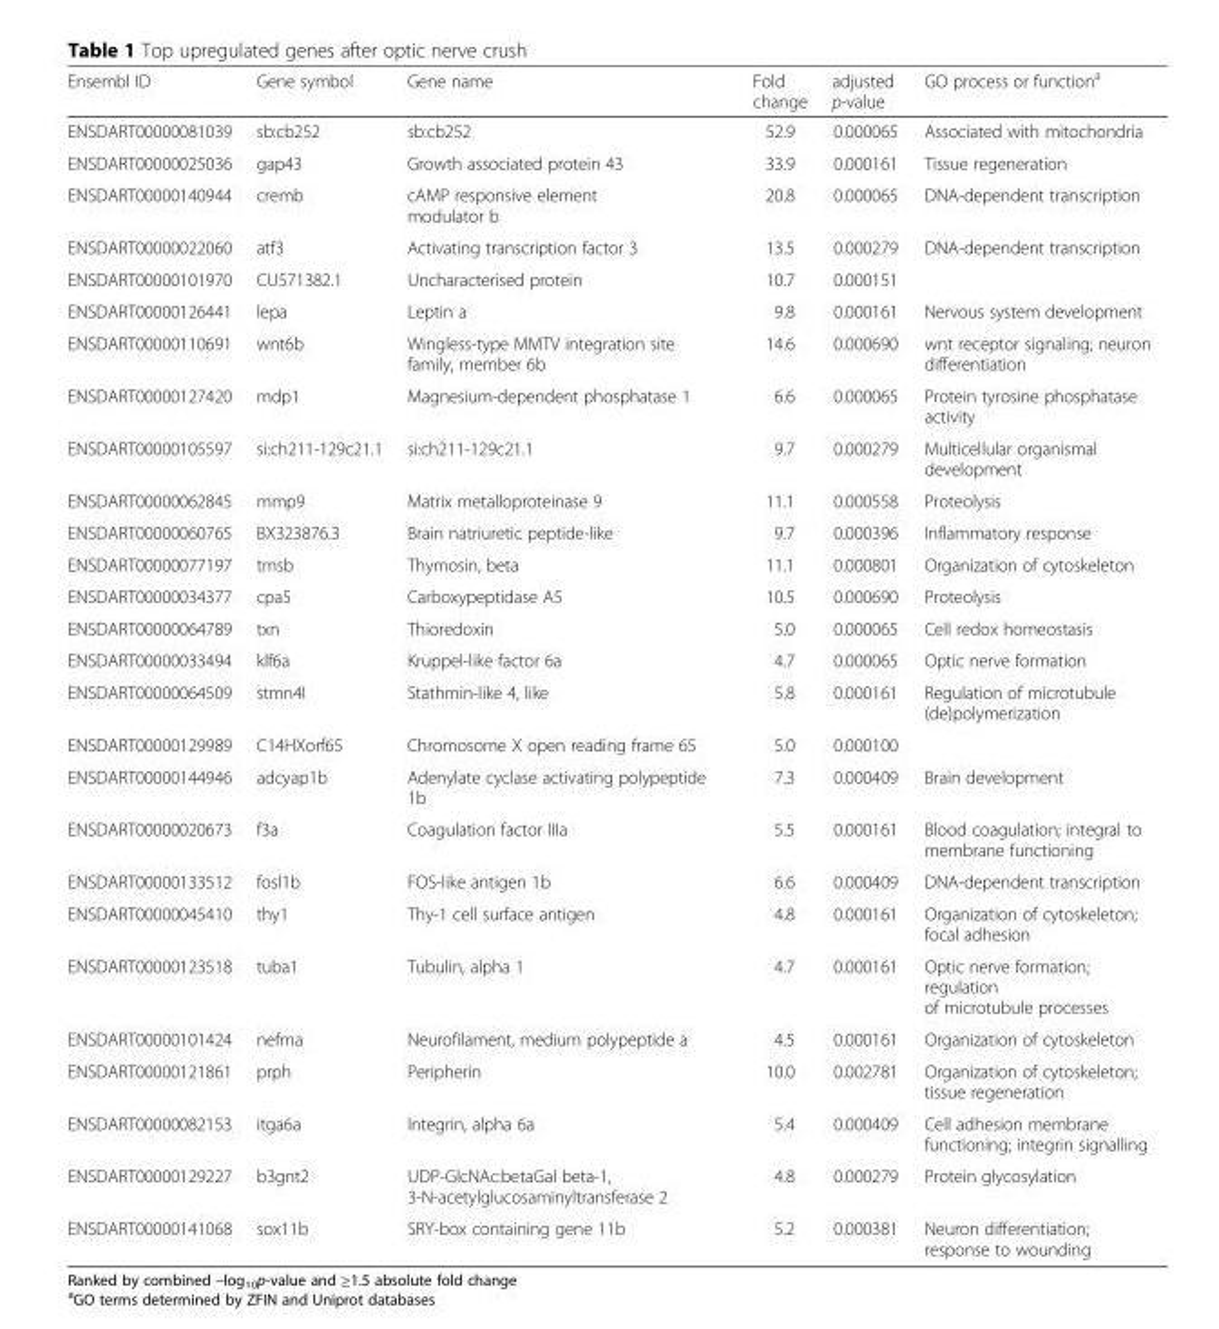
<table><thead><tr><td>Ensembl ID</td><td>Gene symbol</td><td>Gene name</td><td>Fold change</td><td>adjusted p-value</td><td>GO process or function<sup>a</sup></td></tr></thead><tbody><tr><td>ENSDART00000081039</td><td>sb:cb252</td><td>sb:cb252</td><td>52.9</td><td>0.000065</td><td>Associated with mitochondria</td></tr><tr><td>ENSDART00000025036</td><td>gap43</td><td>Growth associated protein 43</td><td>33.9</td><td>0.000161</td><td>Tissue regeneration</td></tr><tr><td>ENSDART00000140944</td><td>cremb</td><td>cAMP responsive element modulator b</td><td>20.8</td><td>0.000065</td><td>DNA-dependent transcription</td></tr><tr><td>ENSDART00000022060</td><td>atf3</td><td>Activating transcription factor 3</td><td>13.5</td><td>0.000279</td><td>DNA-dependent transcription</td></tr><tr><td>ENSDART00000101970</td><td>CU571382.1</td><td>Uncharacterised protein</td><td>10.7</td><td>0.000151</td><td></td></tr><tr><td>ENSDART00000126441</td><td>lepa</td><td>Leptin a</td><td>9.8</td><td>0.000161</td><td>Nervous system development</td></tr><tr><td>ENSDART00000110691</td><td>wnt6b</td><td>Wingless-type MMTV integration site family, member 6b</td><td>14.6</td><td>0.000690</td><td>wnt receptor signaling; neuron differentiation</td></tr><tr><td>ENSDART00000127420</td><td>mdp1</td><td>Magnesium-dependent phosphatase 1</td><td>6.6</td><td>0.000065</td><td>Protein tyrosine phosphatase activity</td></tr><tr><td>ENSDART00000105597</td><td>si:ch211-129c21.1</td><td>si:ch211-129c21.1</td><td>9.7</td><td>0.000279</td><td>Multicellular organismal development</td></tr><tr><td>ENSDART00000062845</td><td>mmp9</td><td>Matrix metalloproteinase 9</td><td>11.1</td><td>0.000558</td><td>Proteolysis</td></tr><tr><td>ENSDART00000060765</td><td>BX323876.3</td><td>Brain natriuretic peptide-like</td><td>9.7</td><td>0.000396</td><td>Inflammatory response</td></tr><tr><td>ENSDART00000077197</td><td>tmsb</td><td>Thymosin, beta</td><td>11.1</td><td>0.000801</td><td>Organization of cytoskeleton</td></tr><tr><td>ENSDART00000034377</td><td>cpa5</td><td>Carboxypeptidase A5</td><td>10.5</td><td>0.000690</td><td>Proteolysis</td></tr><tr><td>ENSDART00000064789</td><td>txn</td><td>Thioredoxin</td><td>5.0</td><td>0.000065</td><td>Cell redox homeostasis</td></tr><tr><td>ENSDART00000033494</td><td>klf6a</td><td>Kruppel-like factor 6a</td><td>4.7</td><td>0.000065</td><td>Optic nerve formation</td></tr><tr><td>ENSDART00000064509</td><td>stmn4l</td><td>Stathmin-like 4, like</td><td>5.8</td><td>0.000161</td><td>Regulation of microtubule (de)polymerization</td></tr><tr><td>ENSDART00000129989</td><td>C14HXorf65</td><td>Chromosome X open reading frame 65</td><td>5.0</td><td>0.000100</td><td></td></tr><tr><td>ENSDART00000144946</td><td>adcyap1b</td><td>Adenylate cyclase activating polypeptide 1b</td><td>7.3</td><td>0.000409</td><td>Brain development</td></tr><tr><td>ENSDART00000020673</td><td>f3a</td><td>Coagulation factor IIIa</td><td>5.5</td><td>0.000161</td><td>Blood coagulation; integral to membrane functioning</td></tr><tr><td>ENSDART00000133512</td><td>fosl1b</td><td>FOS-like antigen 1b</td><td>6.6</td><td>0.000409</td><td>DNA-dependent transcription</td></tr><tr><td>ENSDART00000045410</td><td>thy1</td><td>Thy-1 cell surface antigen</td><td>4.8</td><td>0.000161</td><td>Organization of cytoskeleton; focal adhesion</td></tr><tr><td>ENSDART00000123518</td><td>tuba1</td><td>Tubulin, alpha 1</td><td>4.7</td><td>0.000161</td><td>Optic nerve formation; regulation of microtubule processes</td></tr><tr><td>ENSDART00000101424</td><td>nefma</td><td>Neurofilament, medium polypeptide a</td><td>4.5</td><td>0.000161</td><td>Organization of cytoskeleton</td></tr><tr><td>ENSDART00000121861</td><td>prph</td><td>Peripherin</td><td>10.0</td><td>0.002781</td><td>Organization of cytoskeleton; tissue regeneration</td></tr><tr><td>ENSDART00000082153</td><td>itga6a</td><td>Integrin, alpha 6a</td><td>5.4</td><td>0.000409</td><td>Cell adhesion membrane functioning; integrin signalling</td></tr><tr><td>ENSDART00000129227</td><td>b3gnt2</td><td>UDP-GlcNAc:betaGal beta-1, 3-N-acetylglucosaminyltransferase 2</td><td>4.8</td><td>0.000279</td><td>Protein glycosylation</td></tr><tr><td>ENSDART00000141068</td><td>sox11b</td><td>SRY-box containing gene 11b</td><td>5.2</td><td>0.000381</td><td>Neuron differentiation; response to wounding</td></tr></tbody></table>